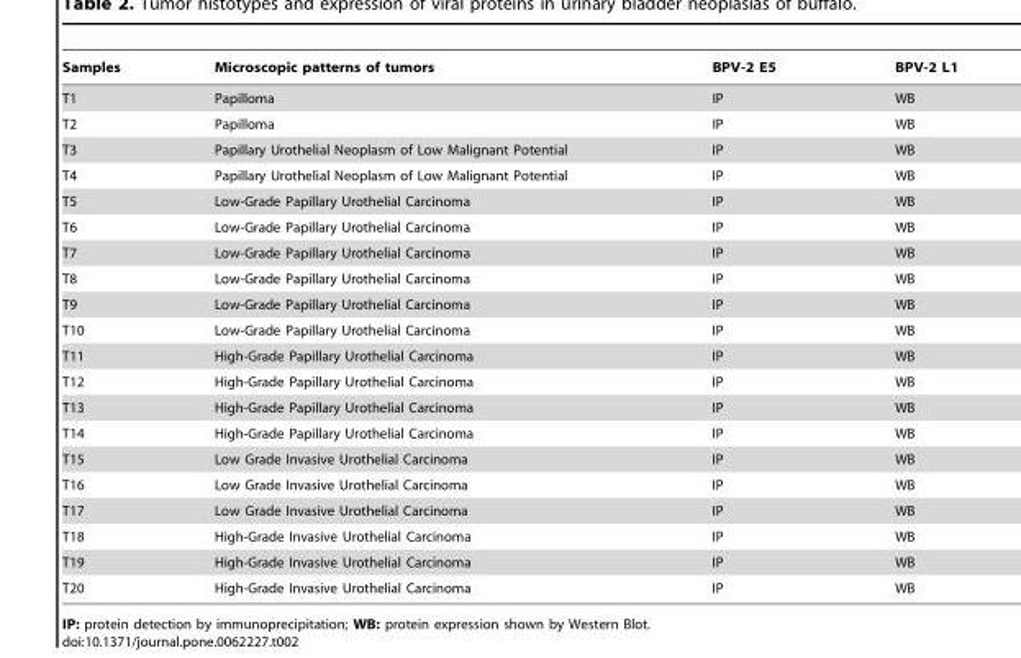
<table><thead><tr><td>Samples</td><td>Microscopic patterns of tumors</td><td>BPV-2 E5</td><td>BPV-2 L1</td></tr></thead><tbody><tr><td>T1</td><td>Papilloma</td><td>IP</td><td>WB</td></tr><tr><td>T2</td><td>Papilloma</td><td>IP</td><td>WB</td></tr><tr><td>T3</td><td>Papillary Urothelial Neoplasm of Low Malignant Potential</td><td>IP</td><td>WB</td></tr><tr><td>T4</td><td>Papillary Urothelial Neoplasm of Low Malignant Potential</td><td>IP</td><td>WB</td></tr><tr><td>T5</td><td>Low-Grade Papillary Urothelial Carcinoma</td><td>IP</td><td>WB</td></tr><tr><td>T6</td><td>Low-Grade Papillary Urothelial Carcinoma</td><td>IP</td><td>WB</td></tr><tr><td>T7</td><td>Low-Grade Papillary Urothelial Carcinoma</td><td>IP</td><td>WB</td></tr><tr><td>T8</td><td>Low-Grade Papillary Urothelial Carcinoma</td><td>IP</td><td>WB</td></tr><tr><td>T9</td><td>Low-Grade Papillary Urothelial Carcinoma</td><td>IP</td><td>WB</td></tr><tr><td>T10</td><td>Low-Grade Papillary Urothelial Carcinoma</td><td>IP</td><td>WB</td></tr><tr><td>T11</td><td>High-Grade Papillary Urothelial Carcinoma</td><td>IP</td><td>WB</td></tr><tr><td>T12</td><td>High-Grade Papillary Urothelial Carcinoma</td><td>IP</td><td>WB</td></tr><tr><td>T13</td><td>High-Grade Papillary Urothelial Carcinoma</td><td>IP</td><td>WB</td></tr><tr><td>T14</td><td>High-Grade Papillary Urothelial Carcinoma</td><td>IP</td><td>WB</td></tr><tr><td>T15</td><td>Low Grade Invasive Urothelial Carcinoma</td><td>IP</td><td>WB</td></tr><tr><td>T16</td><td>Low Grade Invasive Urothelial Carcinoma</td><td>IP</td><td>WB</td></tr><tr><td>T17</td><td>Low Grade Invasive Urothelial Carcinoma</td><td>IP</td><td>WB</td></tr><tr><td>T18</td><td>High-Grade Invasive Urothelial Carcinoma</td><td>IP</td><td>WB</td></tr><tr><td>T19</td><td>High-Grade Invasive Urothelial Carcinoma</td><td>IP</td><td>WB</td></tr><tr><td>T20</td><td>High-Grade Invasive Urothelial Carcinoma</td><td>IP</td><td>WB</td></tr></tbody></table>